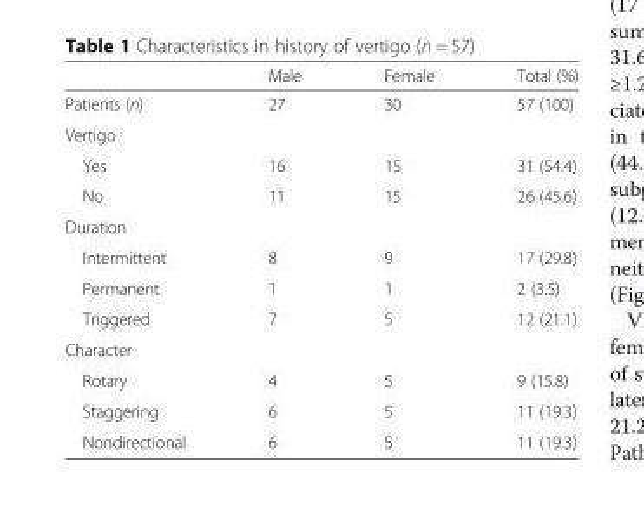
<table><thead><tr><td></td><td>Male</td><td>Female</td><td>Total (%)</td></tr></thead><tbody><tr><td>Patients (n)</td><td>27</td><td>30</td><td>57 (100)</td></tr><tr><td colspan="4">Vertigo</td></tr><tr><td>Yes</td><td>16</td><td>15</td><td>31 (54.4)</td></tr><tr><td>No</td><td>11</td><td>15</td><td>26 (45.6)</td></tr><tr><td colspan="4">Duration</td></tr><tr><td>Intermittent</td><td>8</td><td>9</td><td>17 (29.8)</td></tr><tr><td>Permanent</td><td>1</td><td>1</td><td>2 (3.5)</td></tr><tr><td>Triggered</td><td>7</td><td>5</td><td>12 (21.1)</td></tr><tr><td colspan="4">Character</td></tr><tr><td>Rotary</td><td>4</td><td>5</td><td>9 (15.8)</td></tr><tr><td>Staggering</td><td>6</td><td>5</td><td>11 (19.3)</td></tr><tr><td>Nondirectional</td><td>6</td><td>5</td><td>11 (19.3)</td></tr></tbody></table>